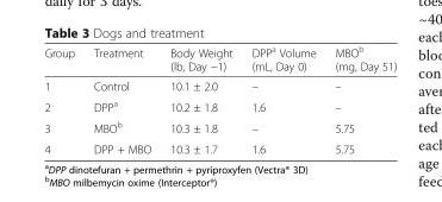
<table><thead><tr><td>Group</td><td>Treatment</td><td>Body Weight (lb, Day −1)</td><td>DPP<sup>a</sup> Volume (mL, Day 0)</td><td>MBO<sup>b</sup> (mg, Day 51)</td></tr></thead><tbody><tr><td>1</td><td>Control</td><td>10.1 ± 2.0</td><td>–</td><td>–</td></tr><tr><td>2</td><td>DPP<sup>a</sup></td><td>10.2 ± 1.8</td><td>1.6</td><td>–</td></tr><tr><td>3</td><td>MBO<sup>b</sup></td><td>10.3 ± 1.8</td><td>–</td><td>5.75</td></tr><tr><td>4</td><td>DPP + MBO</td><td>10.3 ± 1.7</td><td>1.6</td><td>5.75</td></tr></tbody></table>